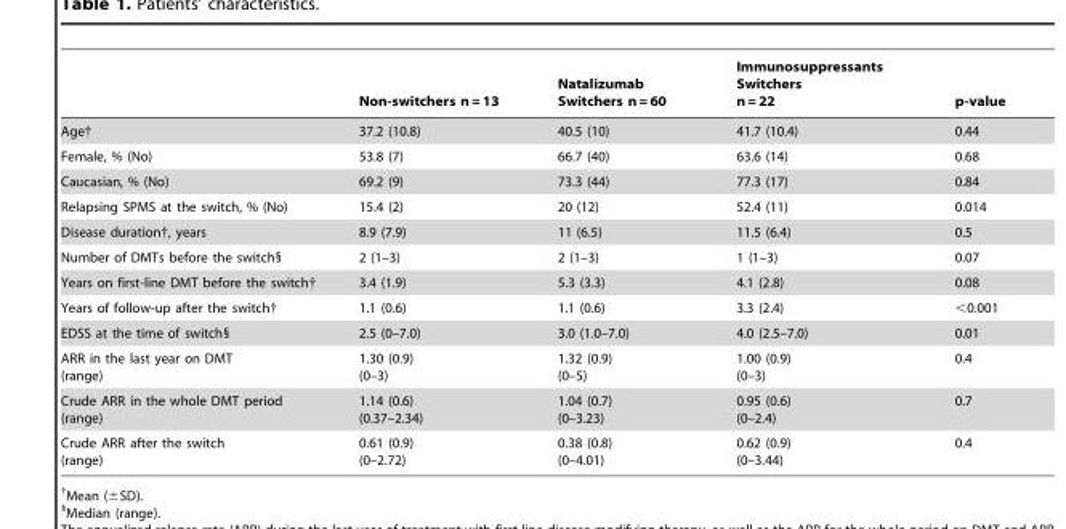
<table><thead><tr><td></td><td>Non-switchers n = 13</td><td>Natalizumab Switchers n = 60</td><td>Immunosuppressants Switchers n = 22</td><td>p-value</td></tr></thead><tbody><tr><td>Age†</td><td>37.2 (10.8)</td><td>40.5 (10)</td><td>41.7 (10.4)</td><td>0.44</td></tr><tr><td>Female, % (No)</td><td>53.8 (7)</td><td>66.7 (40)</td><td>63.6 (14)</td><td>0.68</td></tr><tr><td>Caucasian, % (No)</td><td>69.2 (9)</td><td>73.3 (44)</td><td>77.3 (17)</td><td>0.84</td></tr><tr><td>Relapsing SPMS at the switch, % (No)</td><td>15.4 (2)</td><td>20 (12)</td><td>52.4 (11)</td><td>0.014</td></tr><tr><td>Disease duration†, years</td><td>8.9 (7.9)</td><td>11 (6.5)</td><td>11.5 (6.4)</td><td>0.5</td></tr><tr><td>Number of DMTs before the switch§</td><td>2 (1–3)</td><td>2 (1–3)</td><td>1 (1–3)</td><td>0.07</td></tr><tr><td>Years on first-line DMT before the switch†</td><td>3.4 (1.9)</td><td>5.3 (3.3)</td><td>4.1 (2.8)</td><td>0.08</td></tr><tr><td>Years of follow-up after the switch†</td><td>1.1 (0.6)</td><td>1.1 (0.6)</td><td>3.3 (2.4)</td><td>&lt;0.001</td></tr><tr><td>EDSS at the time of switch§</td><td>2.5 (0–7.0)</td><td>3.0 (1.0–7.0)</td><td>4.0 (2.5–7.0)</td><td>0.01</td></tr><tr><td>ARR in the last year on DMT (range)</td><td>1.30 (0.9) (0–3)</td><td>1.32 (0.9) (0–5)</td><td>1.00 (0.9) (0–3)</td><td>0.4</td></tr><tr><td>Crude ARR in the whole DMT period (range)</td><td>1.14 (0.6) (0.37–2.34)</td><td>1.04 (0.7) (0–3.23)</td><td>0.95 (0.6) (0–2.4)</td><td>0.7</td></tr><tr><td>Crude ARR after the switch (range)</td><td>0.61 (0.9) (0–2.72)</td><td>0.38 (0.8) (0–4.01)</td><td>0.62 (0.9) (0–3.44)</td><td>0.4</td></tr></tbody></table>